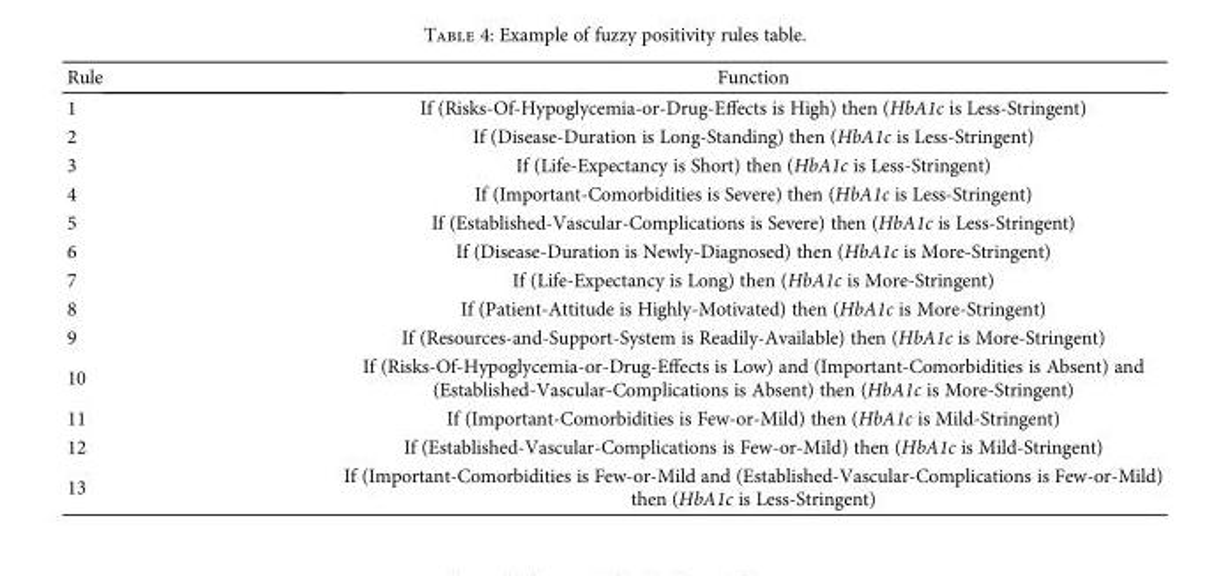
<table><thead><tr><td>Rule</td><td>Function</td></tr></thead><tbody><tr><td>1</td><td>If (Risks-Of-Hypoglycemia-or-Drug-Effects is High) then (HbA1c is Less-Stringent)</td></tr><tr><td>2</td><td>If (Disease-Duration is Long-Standing) then (HbA1c is Less-Stringent)</td></tr><tr><td>3</td><td>If (Life-Expectancy is Short) then (HbA1c is Less-Stringent)</td></tr><tr><td>4</td><td>If (Important-Comorbidities is Severe) then (HbA1c is Less-Stringent)</td></tr><tr><td>5</td><td>If (Established-Vascular-Complications is Severe) then (HbA1c is Less-Stringent)</td></tr><tr><td>6</td><td>If (Disease-Duration is Newly-Diagnosed) then (HbA1c is More-Stringent)</td></tr><tr><td>7</td><td>If (Life-Expectancy is Long) then (HbA1c is More-Stringent)</td></tr><tr><td>8</td><td>If (Patient-Attitude is Highly-Motivated) then (HbA1c is More-Stringent)</td></tr><tr><td>9</td><td>If (Resources-and-Support-System is Readily-Available) then (HbA1c is More-Stringent)</td></tr><tr><td>10</td><td>If (Risks-Of-Hypoglycemia-or-Drug-Effects is Low) and (Important-Comorbidities is Absent) and (Established-Vascular-Complications is Absent) then (HbA1c is More-Stringent)</td></tr><tr><td>11</td><td>If (Important-Comorbidities is Few-or-Mild) then (HbA1c is Mild-Stringent)</td></tr><tr><td>12</td><td>If (Established-Vascular-Complications is Few-or-Mild) then (HbA1c is Mild-Stringent)</td></tr><tr><td>13</td><td>If (Important-Comorbidities is Few-or-Mild and (Established-Vascular-Complications is Few-or-Mild) then (HbA1c is Less-Stringent)</td></tr></tbody></table>